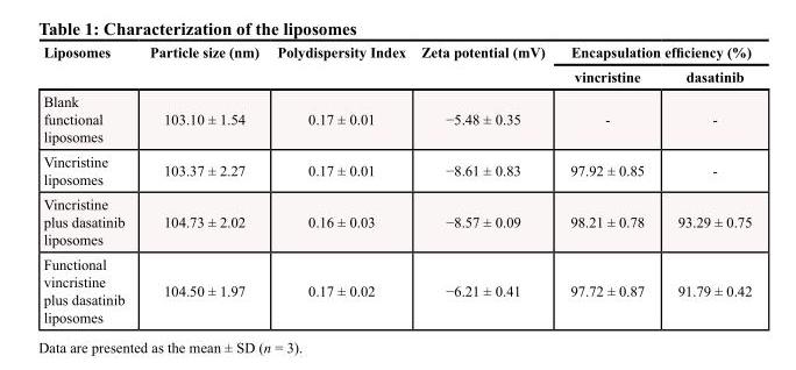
<table><thead><tr><td rowspan="2">Liposomes</td><td rowspan="2">Particle size (nm)</td><td rowspan="2">Polydispersity Index</td><td rowspan="2">Zeta potential (mV)</td><td colspan="2">Encapsulation effi ciency (%)</td></tr><tr><td>vincristine</td><td>dasatinib</td></tr></thead><tbody><tr><td>Blank functional liposomes</td><td>103.10 ± 1.54</td><td>0.17 ± 0.01</td><td>−5.48 ± 0.35</td><td>-</td><td>-</td></tr><tr><td>Vincristine liposomes</td><td>103.37 ± 2.27</td><td>0.17 ± 0.01</td><td>−8.61 ± 0.83</td><td>97.92 ± 0.85</td><td>-</td></tr><tr><td>Vincristine plus dasatinib liposomes</td><td>104.73 ± 2.02</td><td>0.16 ± 0.03</td><td>−8.57 ± 0.09</td><td>98.21 ± 0.78</td><td>93.29 ± 0.75</td></tr><tr><td>Functional vincristine plus dasatinib liposomes</td><td>104.50 ± 1.97</td><td>0.17 ± 0.02</td><td>−6.21 ± 0.41</td><td>97.72 ± 0.87</td><td>91.79 ± 0.42</td></tr></tbody></table>